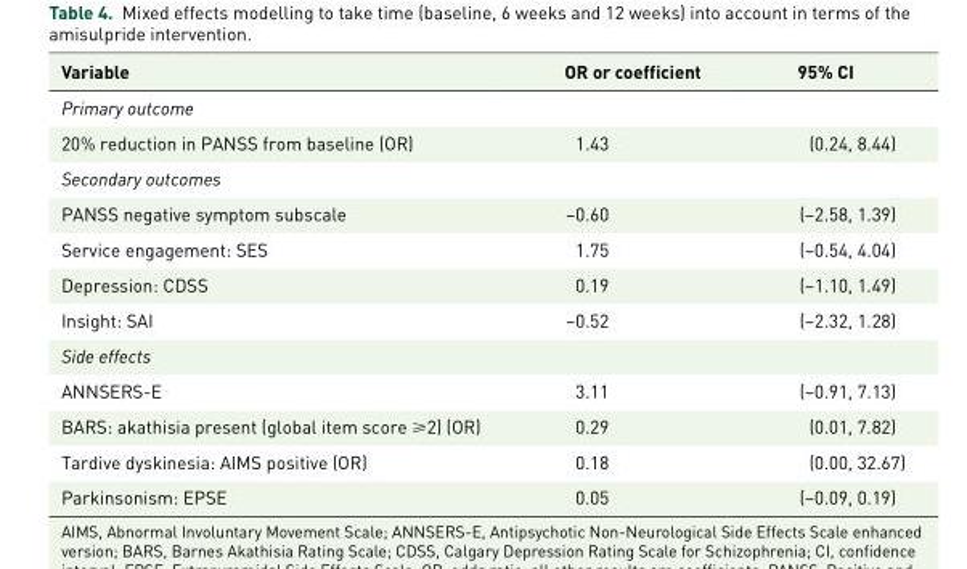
<table><thead><tr><td>Variable</td><td>OR or coefficient</td><td>95% CI</td></tr></thead><tbody><tr><td colspan="3">Primary outcome</td></tr><tr><td>20% reduction in PANSS from baseline (OR)</td><td>1.43</td><td>(0.24, 8.44)</td></tr><tr><td colspan="3">Secondary outcomes</td></tr><tr><td>PANSS negative symptom subscale</td><td>−0.60</td><td>(−2.58, 1.39)</td></tr><tr><td>Service engagement: SES</td><td>1.75</td><td>(−0.54, 4.04)</td></tr><tr><td>Depression: CDSS</td><td>0.19</td><td>(−1.10, 1.49)</td></tr><tr><td>Insight: SAI</td><td>−0.52</td><td>(−2.32, 1.28)</td></tr><tr><td colspan="3">Side effects</td></tr><tr><td>ANNSERS-E</td><td>3.11</td><td>(−0.91, 7.13)</td></tr><tr><td>BARS: akathisia present (global item score ⩾2) (OR)</td><td>0.29</td><td>(0.01, 7.82)</td></tr><tr><td>Tardive dyskinesia: AIMS positive (OR)</td><td>0.18</td><td>(0.00, 32.67)</td></tr><tr><td>Parkinsonism: EPSE</td><td>0.05</td><td>(−0.09, 0.19)</td></tr></tbody></table>